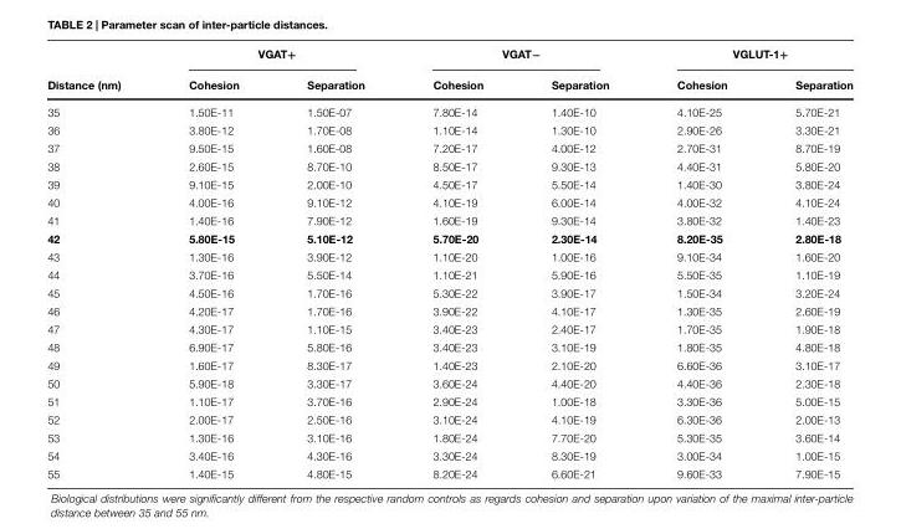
<table><thead><tr><td rowspan="2">Distance (nm)</td><td colspan="2">VGAT+</td><td colspan="2">VGAT−</td><td colspan="2">VGLUT-1+</td></tr><tr><td>Cohesion</td><td>Separation</td><td>Cohesion</td><td>Separation</td><td>Cohesion</td><td>Separation</td></tr></thead><tbody><tr><td>35</td><td>1.50E-11</td><td>1.50E-07</td><td>7.80E-14</td><td>1.40E-10</td><td>4.10E-25</td><td>5.70E-21</td></tr><tr><td>36</td><td>3.80E-12</td><td>1.70E-08</td><td>1.10E-14</td><td>1.30E-10</td><td>2.90E-26</td><td>3.30E-21</td></tr><tr><td>37</td><td>9.50E-15</td><td>1.60E-08</td><td>7.20E-17</td><td>4.00E-12</td><td>2.70E-31</td><td>8.70E-19</td></tr><tr><td>38</td><td>2.60E-15</td><td>8.70E-10</td><td>8.50E-17</td><td>9.30E-13</td><td>4.40E-31</td><td>5.80E-20</td></tr><tr><td>39</td><td>9.10E-15</td><td>2.00E-10</td><td>4.50E-17</td><td>5.50E-14</td><td>1.40E-30</td><td>3.80E-24</td></tr><tr><td>40</td><td>4.00E-16</td><td>9.10E-12</td><td>4.10E-19</td><td>6.00E-14</td><td>4.00E-32</td><td>4.10E-24</td></tr><tr><td>41</td><td>1.40E-16</td><td>7.90E-12</td><td>1.60E-19</td><td>9.30E-14</td><td>3.80E-32</td><td>1.40E-23</td></tr><tr><td>42</td><td>5.80E-15</td><td>5.10E-12</td><td>5.70E-20</td><td>2.30E-14</td><td>8.20E-35</td><td>2.80E-18</td></tr><tr><td>43</td><td>1.30E-16</td><td>3.90E-12</td><td>1.10E-20</td><td>1.00E-16</td><td>9.10E-34</td><td>1.60E-20</td></tr><tr><td>44</td><td>3.70E-16</td><td>5.50E-14</td><td>1.10E-21</td><td>5.90E-16</td><td>5.50E-35</td><td>1.10E-19</td></tr><tr><td>45</td><td>4.50E-16</td><td>1.70E-16</td><td>5.30E-22</td><td>3.90E-17</td><td>1.50E-34</td><td>3.20E-24</td></tr><tr><td>46</td><td>4.20E-17</td><td>1.70E-16</td><td>3.90E-22</td><td>4.10E-17</td><td>1.30E-35</td><td>2.60E-19</td></tr><tr><td>47</td><td>4.30E-17</td><td>1.10E-15</td><td>3.40E-23</td><td>2.40E-17</td><td>1.70E-35</td><td>1.90E-18</td></tr><tr><td>48</td><td>6.90E-17</td><td>5.80E-16</td><td>3.40E-23</td><td>3.10E-19</td><td>1.80E-35</td><td>4.80E-18</td></tr><tr><td>49</td><td>1.60E-17</td><td>8.30E-17</td><td>1.40E-23</td><td>2.10E-20</td><td>6.60E-36</td><td>3.10E-17</td></tr><tr><td>50</td><td>5.90E-18</td><td>3.30E-17</td><td>3.60E-24</td><td>4.40E-20</td><td>4.40E-36</td><td>2.30E-18</td></tr><tr><td>51</td><td>1.10E-17</td><td>3.70E-16</td><td>2.90E-24</td><td>1.00E-18</td><td>3.30E-36</td><td>5.00E-15</td></tr><tr><td>52</td><td>2.00E-17</td><td>2.50E-16</td><td>3.10E-24</td><td>4.10E-19</td><td>6.30E-36</td><td>2.00E-13</td></tr><tr><td>53</td><td>1.30E-16</td><td>3.10E-16</td><td>1.80E-24</td><td>7.70E-20</td><td>5.30E-35</td><td>3.60E-14</td></tr><tr><td>54</td><td>3.40E-16</td><td>4.30E-16</td><td>3.30E-24</td><td>8.30E-19</td><td>3.00E-34</td><td>1.00E-15</td></tr><tr><td>55</td><td>1.40E-15</td><td>4.80E-15</td><td>8.20E-24</td><td>6.60E-21</td><td>9.60E-33</td><td>7.90E-15</td></tr></tbody></table>